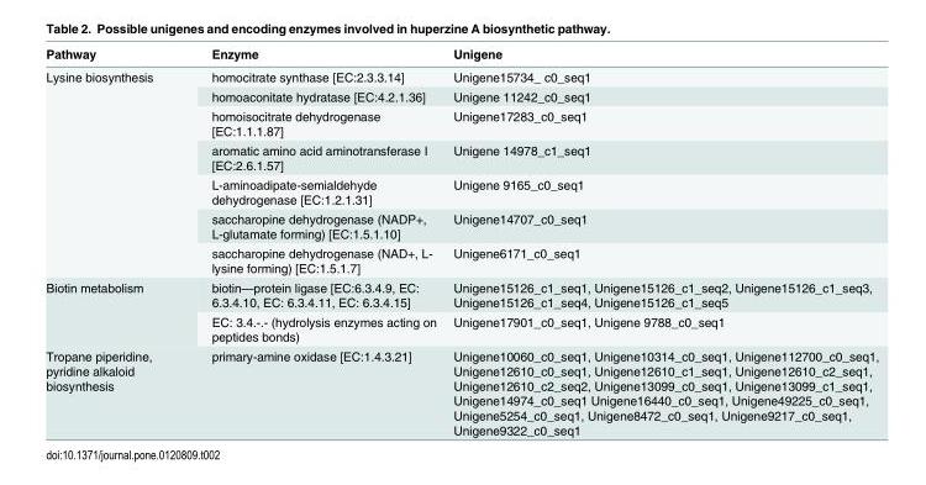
<table><thead><tr><td>Pathway</td><td>Enzyme</td><td>Unigene</td></tr></thead><tbody><tr><td rowspan="7">Lysine biosynthesis</td><td>homocitrate synthase [EC:2.3.3.14]</td><td>Unigene15734_ c0_seq1</td></tr><tr><td>homoaconitate hydratase [EC:4.2.1.36]</td><td>Unigene 11242_c0_seq1</td></tr><tr><td>homoisocitrate dehydrogenase [EC:1.1.1.87]</td><td>Unigene17283_c0_seq1</td></tr><tr><td>aromatic amino acid aminotransferase I [EC:2.6.1.57]</td><td>Unigene 14978_c1_seq1</td></tr><tr><td>L-aminoadipate-semialdehyde dehydrogenase [EC:1.2.1.31]</td><td>Unigene 9165_c0_seq1</td></tr><tr><td>saccharopine dehydrogenase (NADP+, L-glutamate forming) [EC:1.5.1.10]</td><td>Unigene14707_c0_seq1</td></tr><tr><td>saccharopine dehydrogenase (NAD+, L- lysine forming) [EC:1.5.1.7]</td><td>Unigene6171_c0_seq1</td></tr><tr><td rowspan="2">Biotin metabolism</td><td>biotin—protein ligase [EC:6.3.4.9, EC: 6.3.4.10, EC: 6.3.4.11, EC: 6.3.4.15]</td><td>Unigene15126_c1_seq1, Unigene15126_c1_seq2, Unigene15126_c1_seq3, Unigene15126_c1_seq4, Unigene15126_c1_seq5</td></tr><tr><td>EC: 3.4.-.- (hydrolysis enzymes acting on peptides bonds)</td><td>Unigene17901_c0_seq1, Unigene 9788_c0_seq1</td></tr><tr><td>Tropane piperidine, pyridine alkaloid biosynthesis</td><td>primary-amine oxidase [EC:1.4.3.21]</td><td>Unigene10060_c0_seq1, Unigene10314_c0_seq1, Unigene112700_c0_seq1, Unigene12610_c0_seq1, Unigene12610_c1_seq1, Unigene12610_c2_seq1, Unigene12610_c2_seq2, Unigene13099_c0_seq1, Unigene13099_c1_seq1, Unigene14974_c0_seq1 Unigene16440_c0_seq1, Unigene49225_c0_seq1, Unigene5254_c0_seq1, Unigene8472_c0_seq1, Unigene9217_c0_seq1, Unigene9322_c0_seq1</td></tr></tbody></table>